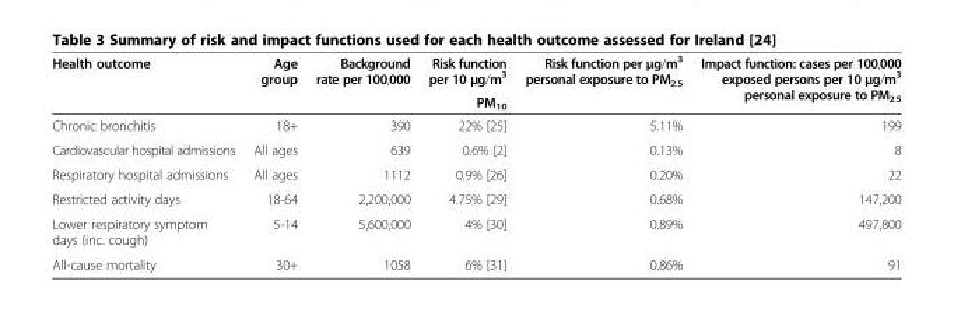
<table><thead><tr><td rowspan="2">Health outcome</td><td rowspan="2">Age group</td><td rowspan="2">Background rate per 100,000</td><td rowspan="2">Risk function per 10 μg/m<sup>3</sup> PM<sub>10</sub></td><td rowspan="2">Risk function per μg/m<sup>3</sup> personal exposure to PM<sub>2.5</sub></td><td rowspan="2">Impact function: cases per 100,000 exposed persons per 10 μg/m<sup>3</sup> personal exposure to PM<sub>2.5</sub></td></tr><tr></tr></thead><tbody><tr><td>Chronic bronchitis</td><td>18+</td><td>390</td><td>22% [25]</td><td>5.11%</td><td>199</td></tr><tr><td>Cardiovascular hospital admissions</td><td>All ages</td><td>639</td><td>0.6% [2]</td><td>0.13%</td><td>8</td></tr><tr><td>Respiratory hospital admissions</td><td>All ages</td><td>1112</td><td>0.9% [26]</td><td>0.20%</td><td>22</td></tr><tr><td>Restricted activity days</td><td>18-64</td><td>2,200,000</td><td>4.75% [29]</td><td>0.68%</td><td>147,200</td></tr><tr><td>Lower respiratory symptom days (inc. cough)</td><td>5-14</td><td>5,600,000</td><td>4% [30]</td><td>0.89%</td><td>497,800</td></tr><tr><td>All-cause mortality</td><td>30+</td><td>1058</td><td>6% [31]</td><td>0.86%</td><td>91</td></tr></tbody></table>